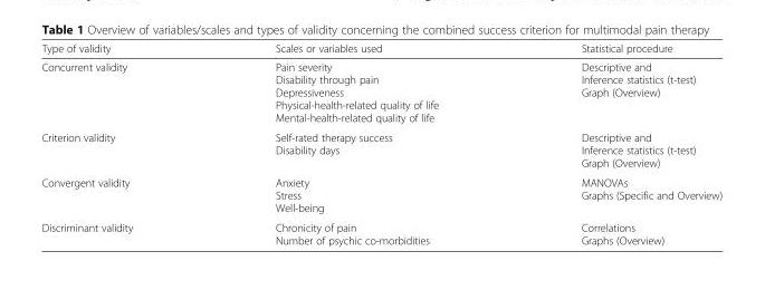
<table><thead><tr><td>Type of validity</td><td>Scales or variables used</td><td>Statistical procedure</td></tr></thead><tbody><tr><td>Concurrent validity</td><td>Pain severity Disability through pain Depressiveness Physical-health-related quality of life Mental-health-related quality of life</td><td>Descriptive and Inference statistics (t-test) Graph (Overview)</td></tr><tr><td>Criterion validity</td><td>Self-rated therapy success Disability days</td><td>Descriptive and Inference statistics (t-test) Graph (Overview)</td></tr><tr><td>Convergent validity</td><td>Anxiety Stress Well-being</td><td>MANOVAs Graphs (Specific and Overview)</td></tr><tr><td>Discriminant validity</td><td>Chronicity of pain Number of psychic co-morbidities</td><td>Correlations Graphs (Overview)</td></tr></tbody></table>